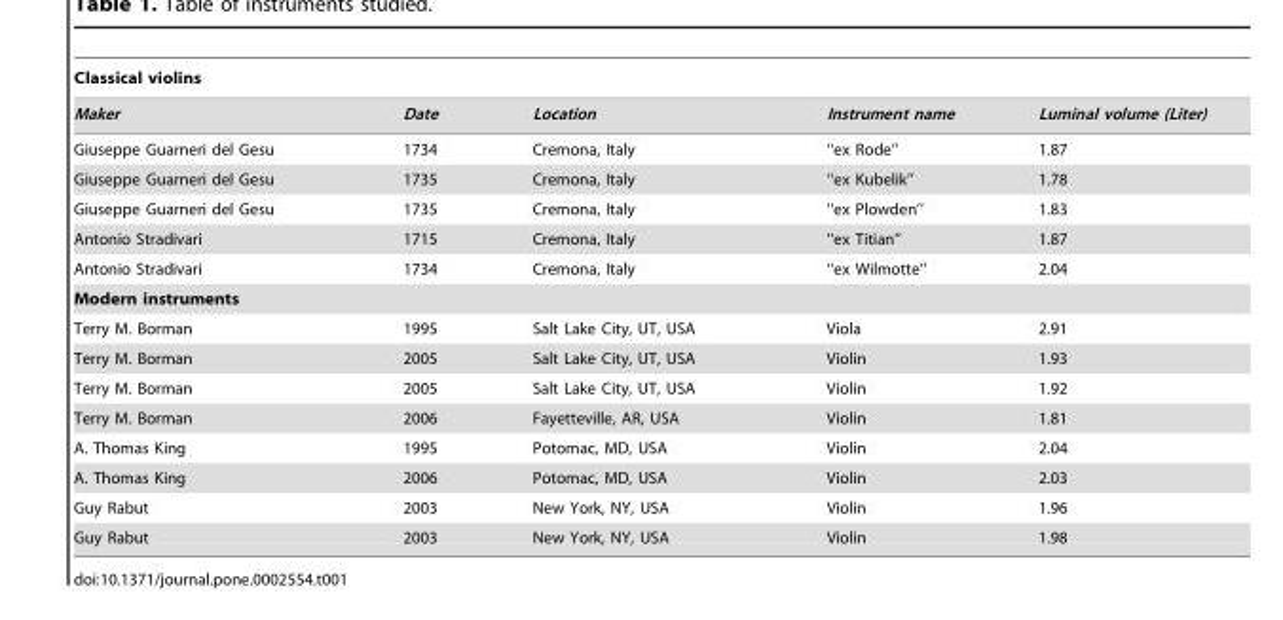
<table><thead><tr><td colspan="5">Classical violins</td></tr><tr><td>Maker</td><td>Date</td><td>Location</td><td>Instrument name</td><td>Luminal volume (Liter)</td></tr></thead><tbody><tr><td>Giuseppe Guarneri del Gesu</td><td>1734</td><td>Cremona, Italy</td><td>‘‘ex Rode’’</td><td>1.87</td></tr><tr><td>Giuseppe Guarneri del Gesu</td><td>1735</td><td>Cremona, Italy</td><td>‘‘ex Kubelik’’</td><td>1.78</td></tr><tr><td>Giuseppe Guarneri del Gesu</td><td>1735</td><td>Cremona, Italy</td><td>‘‘ex Plowden’’</td><td>1.83</td></tr><tr><td>Antonio Stradivari</td><td>1715</td><td>Cremona, Italy</td><td>‘‘ex Titian’’</td><td>1.87</td></tr><tr><td>Antonio Stradivari</td><td>1734</td><td>Cremona, Italy</td><td>‘‘ex Wilmotte’’</td><td>2.04</td></tr><tr><td colspan="5">Modern instruments</td></tr><tr><td>Terry M. Borman</td><td>1995</td><td>Salt Lake City, UT, USA</td><td>Viola</td><td>2.91</td></tr><tr><td>Terry M. Borman</td><td>2005</td><td>Salt Lake City, UT, USA</td><td>Violin</td><td>1.93</td></tr><tr><td>Terry M. Borman</td><td>2005</td><td>Salt Lake City, UT, USA</td><td>Violin</td><td>1.92</td></tr><tr><td>Terry M. Borman</td><td>2006</td><td>Fayetteville, AR, USA</td><td>Violin</td><td>1.81</td></tr><tr><td>A. Thomas King</td><td>1995</td><td>Potomac, MD, USA</td><td>Violin</td><td>2.04</td></tr><tr><td>A. Thomas King</td><td>2006</td><td>Potomac, MD, USA</td><td>Violin</td><td>2.03</td></tr><tr><td>Guy Rabut</td><td>2003</td><td>New York, NY, USA</td><td>Violin</td><td>1.96</td></tr><tr><td>Guy Rabut</td><td>2003</td><td>New York, NY, USA</td><td>Violin</td><td>1.98</td></tr></tbody></table>